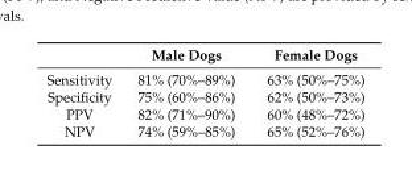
<table><thead><tr><td></td><td>Male Dogs</td><td>Female Dogs</td></tr></thead><tbody><tr><td>Sensitivity</td><td>81% (70%–89%)</td><td>63% (50%–75%)</td></tr><tr><td>Specificity</td><td>75% (60%–86%)</td><td>62% (50%–73%)</td></tr><tr><td>PPV</td><td>82% (71%–90%)</td><td>60% (48%–72%)</td></tr><tr><td>NPV</td><td>74% (59%–85%)</td><td>65% (52%–76%)</td></tr></tbody></table>